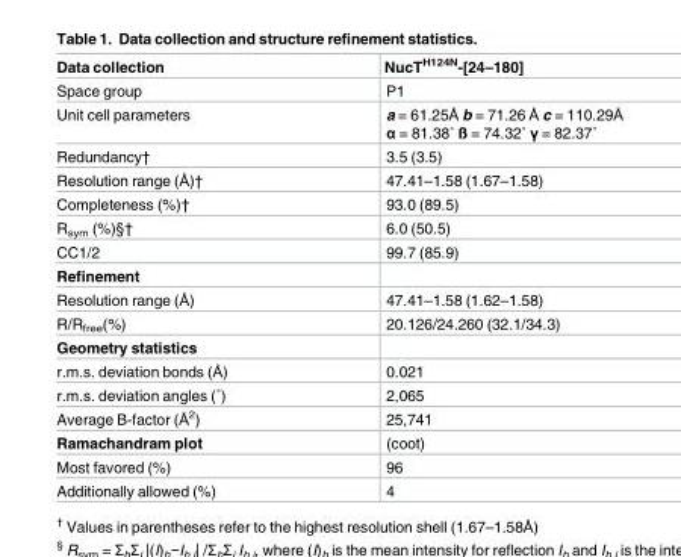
<table><thead><tr><td>Data collection</td><td>NucT<sup>H124N</sup>-[24–180]</td></tr></thead><tbody><tr><td>Space group</td><td>P1</td></tr><tr><td>Unit cell parameters</td><td>a = 61.25Å b = 71.26 Å c = 110.29Å α = 81.38˚ ß = 74.32˚ γ = 82.37˚</td></tr><tr><td>Redundancy†</td><td>3.5 (3.5)</td></tr><tr><td>Resolution range (Å)†</td><td>47.41–1.58 (1.67–1.58)</td></tr><tr><td>Completeness (%)†</td><td>93.0 (89.5)</td></tr><tr><td>R<sub>sym</sub> (%)§†</td><td>6.0 (50.5)</td></tr><tr><td>CC1/2</td><td>99.7 (85.9)</td></tr><tr><td colspan="2">Refinement</td></tr><tr><td>Resolution range (Å)</td><td>47.41–1.58 (1.62–1.58)</td></tr><tr><td>R/R<sub>free</sub>(%)</td><td>20.126/24.260 (32.1/34.3)</td></tr><tr><td colspan="2">Geometry statistics</td></tr><tr><td>r.m.s. deviation bonds (Å)</td><td>0.021</td></tr><tr><td>r.m.s. deviation angles (˚)</td><td>2,065</td></tr><tr><td>Average B-factor (Å<sup>2</sup>)</td><td>25,741</td></tr><tr><td>Ramachandram plot</td><td>(coot)</td></tr><tr><td>Most favored (%)</td><td>96</td></tr><tr><td>Additionally allowed (%)</td><td>4</td></tr></tbody></table>